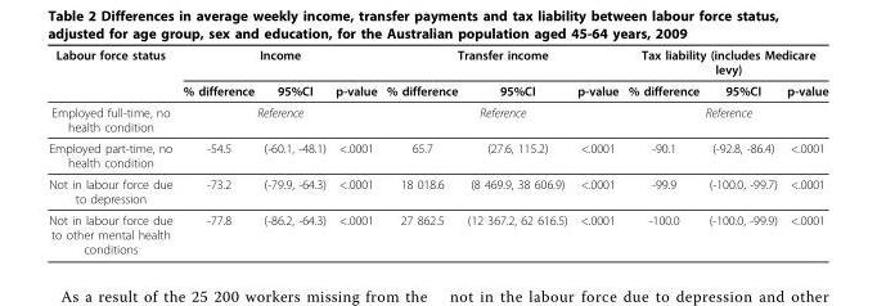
<table><thead><tr><td rowspan="2">Labour force status</td><td colspan="3">Income</td><td colspan="3">Transfer income</td><td colspan="3">Tax liability (includes Medicare levy)</td></tr><tr><td>% difference</td><td>95%CI</td><td>p-value</td><td>% difference</td><td>95%CI</td><td>p-value</td><td>% difference</td><td>95%CI</td><td>p-value</td></tr></thead><tbody><tr><td>Employed full-time, no health condition</td><td colspan="3">Reference</td><td colspan="3">Reference</td><td colspan="3">Reference</td></tr><tr><td>Employed part-time, no health condition</td><td>-54.5</td><td>(-60.1, -48.1)</td><td>&lt;.0001</td><td>65.7</td><td>(27.6, 115.2)</td><td>&lt;.0001</td><td>-90.1</td><td>(-92.8, -86.4)</td><td>&lt;.0001</td></tr><tr><td>Not in labour force due to depression</td><td>-73.2</td><td>(-79.9, -64.3)</td><td>&lt;.0001</td><td>18 018.6</td><td>(8 469.9, 38 606.9)</td><td>&lt;.0001</td><td>-99.9</td><td>(-100.0, -99.7)</td><td>&lt;.0001</td></tr><tr><td>Not in labour force due to other mental health conditions</td><td>-77.8</td><td>(-86.2, -64.3)</td><td>&lt;.0001</td><td>27 862.5</td><td>(12 367.2, 62 616.5)</td><td>&lt;.0001</td><td>-100.0</td><td>(-100.0, -99.9)</td><td>&lt;.0001</td></tr></tbody></table>